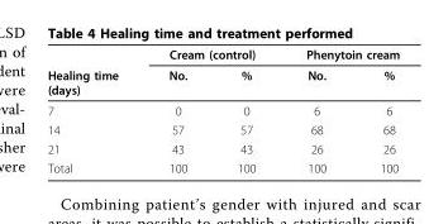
<table><thead><tr><td rowspan="2">Healing time (days)</td><td colspan="2">Cream (control)</td><td colspan="2">Phenytoin cream</td></tr><tr><td>No.</td><td>%</td><td>No.</td><td>%</td></tr></thead><tbody><tr><td>7</td><td>0</td><td>0</td><td>6</td><td>6</td></tr><tr><td>14</td><td>57</td><td>57</td><td>68</td><td>68</td></tr><tr><td>21</td><td>43</td><td>43</td><td>26</td><td>26</td></tr><tr><td>Total</td><td>100</td><td>100</td><td>100</td><td>100</td></tr></tbody></table>